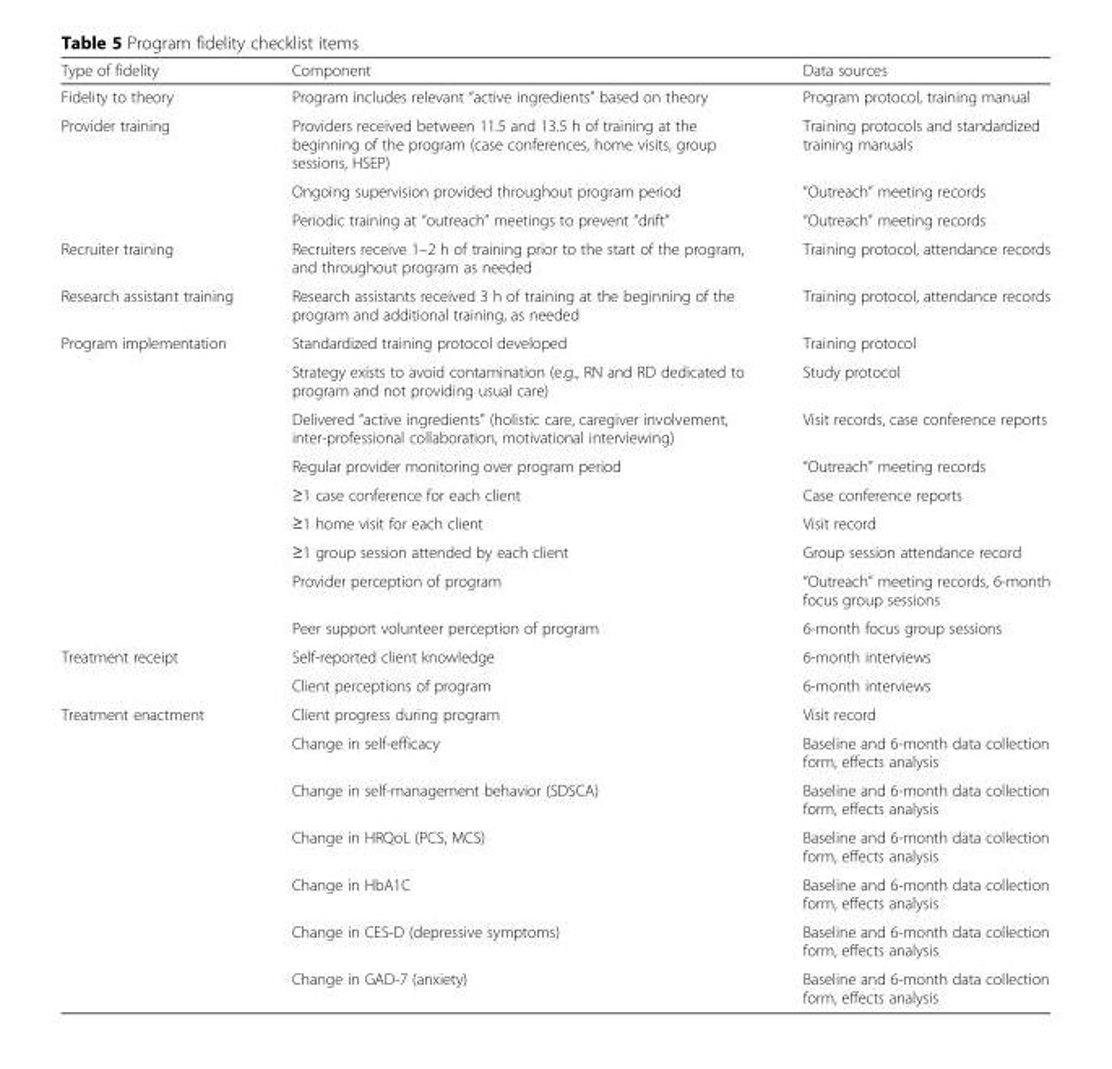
<table><thead><tr><td>Type of fidelity</td><td>Component</td><td>Data sources</td></tr></thead><tbody><tr><td>Fidelity to theory</td><td>Program includes relevant “active ingredients” based on theory</td><td>Program protocol, training manual</td></tr><tr><td rowspan="3">Provider training</td><td>Providers received between 11.5 and 13.5 h of training at the beginning of the program (case conferences, home visits, group sessions, HSEP)</td><td>Training protocols and standardized training manuals</td></tr><tr><td>Ongoing supervision provided throughout program period</td><td>“Outreach” meeting records</td></tr><tr><td>Periodic training at “outreach” meetings to prevent “drift”</td><td>“Outreach” meeting records</td></tr><tr><td>Recruiter training</td><td>Recruiters receive 1–2 h of training prior to the start of the program, and throughout program as needed</td><td>Training protocol, attendance records</td></tr><tr><td>Research assistant training</td><td>Research assistants received 3 h of training at the beginning of the program and additional training, as needed</td><td>Training protocol, attendance records</td></tr><tr><td rowspan="9">Program implementation</td><td>Standardized training protocol developed</td><td>Training protocol</td></tr><tr><td>Strategy exists to avoid contamination (e.g., RN and RD dedicated to program and not providing usual care)</td><td>Study protocol</td></tr><tr><td>Delivered “active ingredients” (holistic care, caregiver involvement, inter-professional collaboration, motivational interviewing)</td><td>Visit records, case conference reports</td></tr><tr><td>Regular provider monitoring over program period</td><td>“Outreach” meeting records</td></tr><tr><td>≥1 case conference for each client</td><td>Case conference reports</td></tr><tr><td>≥1 home visit for each client</td><td>Visit record</td></tr><tr><td>≥1 group session attended by each client</td><td>Group session attendance record</td></tr><tr><td>Provider perception of program</td><td>“Outreach” meeting records, 6-month focus group sessions</td></tr><tr><td>Peer support volunteer perception of program</td><td>6-month focus group sessions</td></tr><tr><td rowspan="2">Treatment receipt</td><td>Self-reported client knowledge</td><td>6-month interviews</td></tr><tr><td>Client perceptions of program</td><td>6-month interviews</td></tr><tr><td rowspan="7">Treatment enactment</td><td>Client progress during program</td><td>Visit record</td></tr><tr><td>Change in self-efficacy</td><td>Baseline and 6-month data collection form, effects analysis</td></tr><tr><td>Change in self-management behavior (SDSCA)</td><td>Baseline and 6-month data collection form, effects analysis</td></tr><tr><td>Change in HRQoL (PCS, MCS)</td><td>Baseline and 6-month data collection form, effects analysis</td></tr><tr><td>Change in HbA1C</td><td>Baseline and 6-month data collection form, effects analysis</td></tr><tr><td>Change in CES-D (depressive symptoms)</td><td>Baseline and 6-month data collection form, effects analysis</td></tr><tr><td>Change in GAD-7 (anxiety)</td><td>Baseline and 6-month data collection form, effects analysis</td></tr></tbody></table>